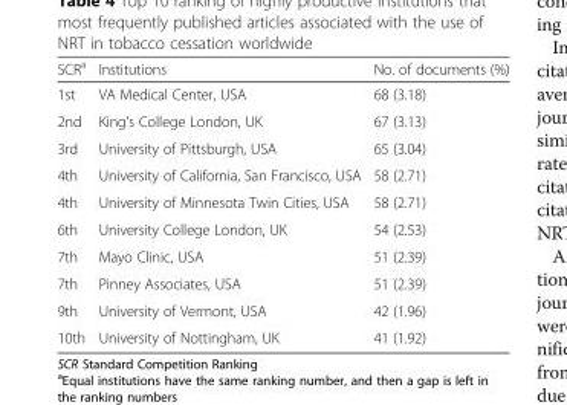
<table><thead><tr><td>SCR<sup>a</sup></td><td>Institutions</td><td>No. of documents (%)</td></tr></thead><tbody><tr><td>1st</td><td>VA Medical Center, USA</td><td>68 (3.18)</td></tr><tr><td>2nd</td><td>King’s College London, UK</td><td>67 (3.13)</td></tr><tr><td>3rd</td><td>University of Pittsburgh, USA</td><td>65 (3.04)</td></tr><tr><td>4th</td><td>University of California, San Francisco, USA</td><td>58 (2.71)</td></tr><tr><td>4th</td><td>University of Minnesota Twin Cities, USA</td><td>58 (2.71)</td></tr><tr><td>6th</td><td>University College London, UK</td><td>54 (2.53)</td></tr><tr><td>7th</td><td>Mayo Clinic, USA</td><td>51 (2.39)</td></tr><tr><td>7th</td><td>Pinney Associates, USA</td><td>51 (2.39)</td></tr><tr><td>9th</td><td>University of Vermont, USA</td><td>42 (1.96)</td></tr><tr><td>10th</td><td>University of Nottingham, UK</td><td>41 (1.92)</td></tr></tbody></table>